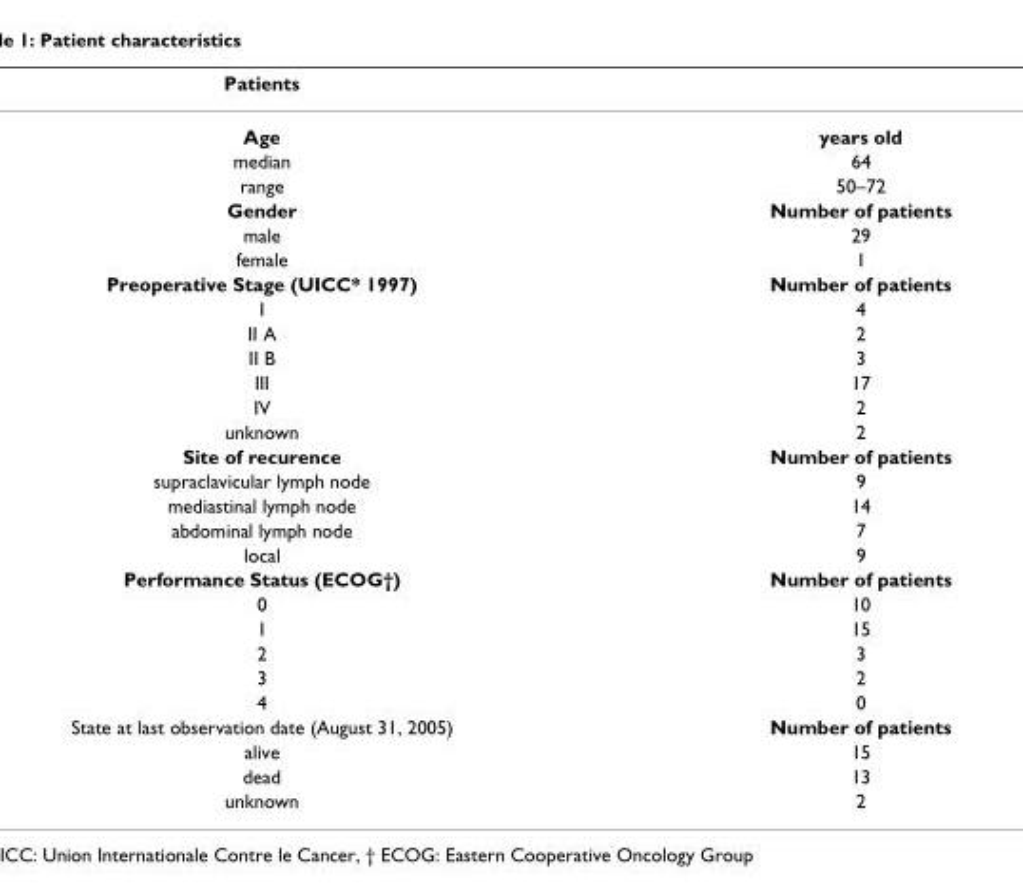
<table><thead><tr><td>Patients</td><td></td></tr></thead><tbody><tr><td>Age</td><td>years old</td></tr><tr><td>median</td><td>64</td></tr><tr><td>range</td><td>50–72</td></tr><tr><td>Gender</td><td>Number of patients</td></tr><tr><td>male</td><td>29</td></tr><tr><td>female</td><td>1</td></tr><tr><td>Preoperative Stage (UICC* 1997)</td><td>Number of patients</td></tr><tr><td>I</td><td>4</td></tr><tr><td>II A</td><td>2</td></tr><tr><td>II B</td><td>3</td></tr><tr><td>III</td><td>17</td></tr><tr><td>IV</td><td>2</td></tr><tr><td>unknown</td><td>2</td></tr><tr><td>Site of recurence</td><td>Number of patients</td></tr><tr><td>supraclavicular lymph node</td><td>9</td></tr><tr><td>mediastinal lymph node</td><td>14</td></tr><tr><td>abdominal lymph node</td><td>7</td></tr><tr><td>local</td><td>9</td></tr><tr><td>Performance Status (ECOG†)</td><td>Number of patients</td></tr><tr><td>0</td><td>10</td></tr><tr><td>1</td><td>15</td></tr><tr><td>2</td><td>3</td></tr><tr><td>3</td><td>2</td></tr><tr><td>4</td><td>0</td></tr><tr><td>State at last observation date (August 31, 2005)</td><td>Number of patients</td></tr><tr><td>alive</td><td>15</td></tr><tr><td>dead</td><td>13</td></tr><tr><td>unknown</td><td>2</td></tr></tbody></table>